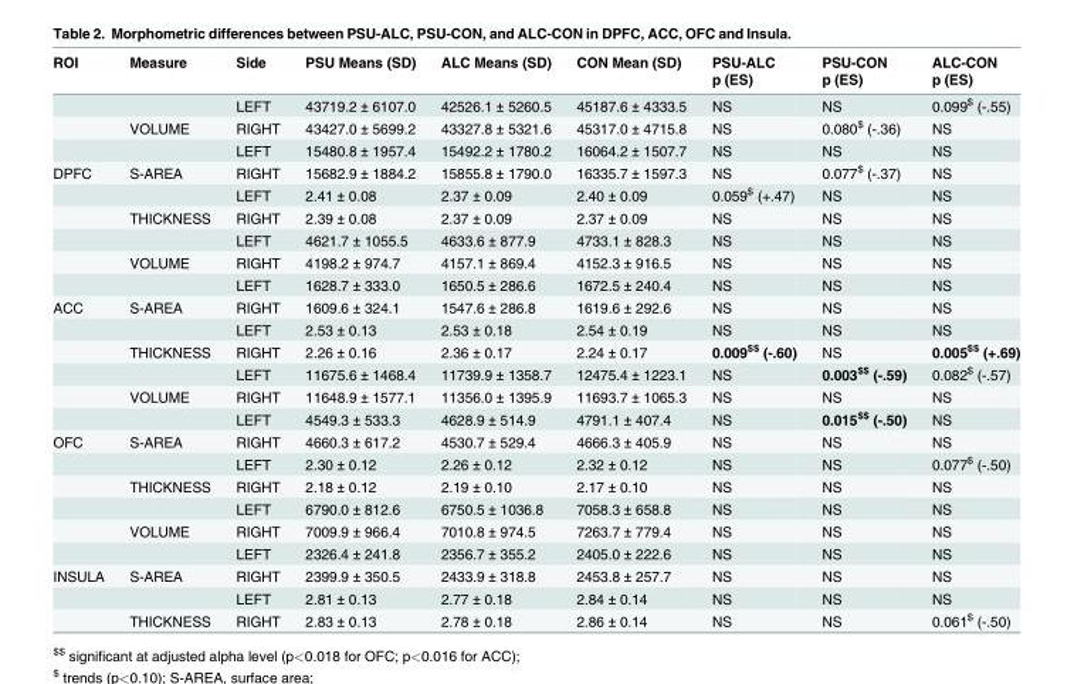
<table><thead><tr><td rowspan="2">ROI</td><td rowspan="2">Measure</td><td rowspan="2">Side</td><td rowspan="2">PSU Means (SD)</td><td rowspan="2">ALC Means (SD)</td><td rowspan="2">CON Mean (SD)</td><td rowspan="2">PSU-ALC p (ES)</td><td rowspan="2">PSU-CON p (ES)</td><td rowspan="2">ALC-CON p (ES)</td></tr><tr></tr></thead><tbody><tr><td></td><td></td><td>LEFT</td><td>43719.2 ± 6107.0</td><td>42526.1 ± 5260.5</td><td>45187.6 ± 4333.5</td><td>NS</td><td>NS</td><td>0.099<sup>$</sup> (-.55)</td></tr><tr><td></td><td>VOLUME</td><td>RIGHT</td><td>43427.0 ± 5699.2</td><td>43327.8 ± 5321.6</td><td>45317.0 ± 4715.8</td><td>NS</td><td>0.080<sup>$</sup> (-.36)</td><td>NS</td></tr><tr><td></td><td></td><td>LEFT</td><td>15480.8 ± 1957.4</td><td>15492.2 ± 1780.2</td><td>16064.2 ± 1507.7</td><td>NS</td><td>NS</td><td>NS</td></tr><tr><td rowspan="6">DPFC</td><td>S-AREA</td><td>RIGHT</td><td>15682.9 ± 1884.2</td><td>15855.8 ± 1790.0</td><td>16335.7 ± 1597.3</td><td>NS</td><td>0.077<sup>$</sup> (-.37)</td><td>NS</td></tr><tr><td></td><td>LEFT</td><td>2.41 ± 0.08</td><td>2.37 ± 0.09</td><td>2.40 ± 0.09</td><td>0.059<sup>$</sup> (+.47)</td><td>NS</td><td>NS</td></tr><tr><td>THICKNESS</td><td>RIGHT</td><td>2.39 ± 0.08</td><td>2.37 ± 0.09</td><td>2.37 ± 0.09</td><td>NS</td><td>NS</td><td>NS</td></tr><tr><td></td><td>LEFT</td><td>4621.7 ± 1055.5</td><td>4633.6 ± 877.9</td><td>4733.1 ± 828.3</td><td>NS</td><td>NS</td><td>NS</td></tr><tr><td>VOLUME</td><td>RIGHT</td><td>4198.2 ± 974.7</td><td>4157.1 ± 869.4</td><td>4152.3 ± 916.5</td><td>NS</td><td>NS</td><td>NS</td></tr><tr><td></td><td>LEFT</td><td>1628.7 ± 333.0</td><td>1650.5 ± 286.6</td><td>1672.5 ± 240.4</td><td>NS</td><td>NS</td><td>NS</td></tr><tr><td rowspan="6">ACC</td><td>S-AREA</td><td>RIGHT</td><td>1609.6 ± 324.1</td><td>1547.6 ± 286.8</td><td>1619.6 ± 292.6</td><td>NS</td><td>NS</td><td>NS</td></tr><tr><td></td><td>LEFT</td><td>2.53 ± 0.13</td><td>2.53 ± 0.18</td><td>2.54 ± 0.19</td><td>NS</td><td>NS</td><td>NS</td></tr><tr><td>THICKNESS</td><td>RIGHT</td><td>2.26 ± 0.16</td><td>2.36 ± 0.17</td><td>2.24 ± 0.17</td><td>0.009<sup>$$</sup> (-.60)</td><td>NS</td><td>0.005<sup>$$</sup> (+.69)</td></tr><tr><td></td><td>LEFT</td><td>11675.6 ± 1468.4</td><td>11739.9 ± 1358.7</td><td>12475.4 ± 1223.1</td><td>NS</td><td>0.003<sup>$$</sup> (-.59)</td><td>0.082<sup>$</sup> (-.57)</td></tr><tr><td>VOLUME</td><td>RIGHT</td><td>11648.9 ± 1577.1</td><td>11356.0 ± 1395.9</td><td>11693.7 ± 1065.3</td><td>NS</td><td>NS</td><td>NS</td></tr><tr><td></td><td>LEFT</td><td>4549.3 ± 533.3</td><td>4628.9 ± 514.9</td><td>4791.1 ± 407.4</td><td>NS</td><td>0.015<sup>$$</sup> (-.50)</td><td>NS</td></tr><tr><td rowspan="6">OFC</td><td>S-AREA</td><td>RIGHT</td><td>4660.3 ± 617.2</td><td>4530.7 ± 529.4</td><td>4666.3 ± 405.9</td><td>NS</td><td>NS</td><td>NS</td></tr><tr><td></td><td>LEFT</td><td>2.30 ± 0.12</td><td>2.26 ± 0.12</td><td>2.32 ± 0.12</td><td>NS</td><td>NS</td><td>0.077<sup>$</sup> (-.50)</td></tr><tr><td>THICKNESS</td><td>RIGHT</td><td>2.18 ± 0.12</td><td>2.19 ± 0.10</td><td>2.17 ± 0.10</td><td>NS</td><td>NS</td><td>NS</td></tr><tr><td></td><td>LEFT</td><td>6790.0 ± 812.6</td><td>6750.5 ± 1036.8</td><td>7058.3 ± 658.8</td><td>NS</td><td>NS</td><td>NS</td></tr><tr><td>VOLUME</td><td>RIGHT</td><td>7009.9 ± 966.4</td><td>7010.8 ± 974.5</td><td>7263.7 ± 779.4</td><td>NS</td><td>NS</td><td>NS</td></tr><tr><td></td><td>LEFT</td><td>2326.4 ± 241.8</td><td>2356.7 ± 355.2</td><td>2405.0 ± 222.6</td><td>NS</td><td>NS</td><td>NS</td></tr><tr><td rowspan="3">INSULA</td><td>S-AREA</td><td>RIGHT</td><td>2399.9 ± 350.5</td><td>2433.9 ± 318.8</td><td>2453.8 ± 257.7</td><td>NS</td><td>NS</td><td>NS</td></tr><tr><td></td><td>LEFT</td><td>2.81 ± 0.13</td><td>2.77 ± 0.18</td><td>2.84 ± 0.14</td><td>NS</td><td>NS</td><td>NS</td></tr><tr><td>THICKNESS</td><td>RIGHT</td><td>2.83 ± 0.13</td><td>2.78 ± 0.18</td><td>2.86 ± 0.14</td><td>NS</td><td>NS</td><td>0.061<sup>$</sup> (-.50)</td></tr></tbody></table>